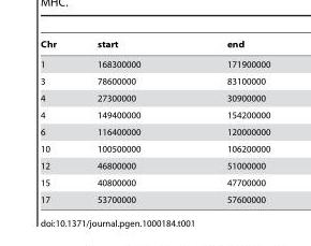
<table><thead><tr><td>Chr</td><td>start</td><td>end</td></tr></thead><tbody><tr><td>1</td><td>168300000</td><td>171900000</td></tr><tr><td>3</td><td>78600000</td><td>83100000</td></tr><tr><td>4</td><td>27300000</td><td>30900000</td></tr><tr><td>4</td><td>149400000</td><td>154200000</td></tr><tr><td>6</td><td>116400000</td><td>120000000</td></tr><tr><td>10</td><td>100500000</td><td>106200000</td></tr><tr><td>12</td><td>46800000</td><td>51000000</td></tr><tr><td>15</td><td>40800000</td><td>47700000</td></tr><tr><td>17</td><td>53700000</td><td>57600000</td></tr></tbody></table>